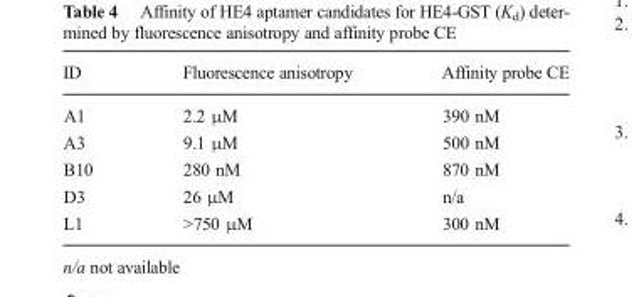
<table><thead><tr><td>ID</td><td>Fluorescence anisotropy</td><td>Affinity probe CE</td></tr></thead><tbody><tr><td>A1</td><td>2.2 μM</td><td>390 nM</td></tr><tr><td>A3</td><td>9.1 μM</td><td>500 nM</td></tr><tr><td>B10</td><td>280 nM</td><td>870 nM</td></tr><tr><td>D3</td><td>26 μM</td><td>n/a</td></tr><tr><td>L1</td><td>&gt;750 μM</td><td>300 nM</td></tr></tbody></table>